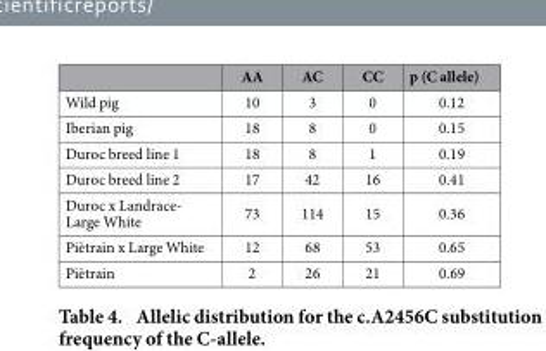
<table><thead><tr><td></td><td>AA</td><td>AC</td><td>CC</td><td>p (C allele)</td></tr></thead><tbody><tr><td>Wild pig</td><td>10</td><td>3</td><td>0</td><td>0.12</td></tr><tr><td>Iberian pig</td><td>18</td><td>8</td><td>0</td><td>0.15</td></tr><tr><td>Duroc breed line 1</td><td>18</td><td>8</td><td>1</td><td>0.19</td></tr><tr><td>Duroc breed line 2</td><td>17</td><td>42</td><td>16</td><td>0.41</td></tr><tr><td>Duroc x Landrace- Large White</td><td>73</td><td>114</td><td>15</td><td>0.36</td></tr><tr><td>Piètrain x Large White</td><td>12</td><td>68</td><td>53</td><td>0.65</td></tr><tr><td>Piètrain</td><td>2</td><td>26</td><td>21</td><td>0.69</td></tr></tbody></table>